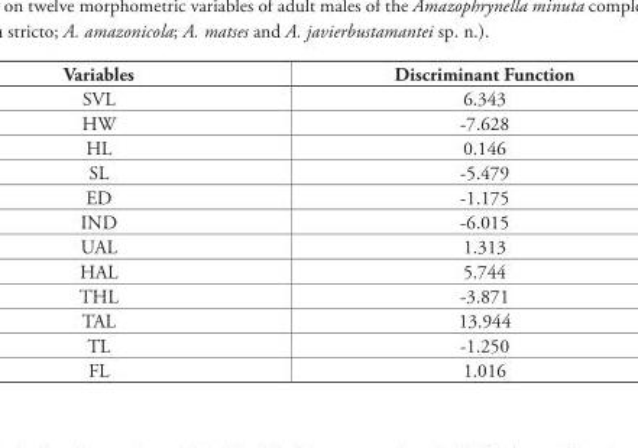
<table><thead><tr><td>Variables</td><td>Discriminant Function</td></tr></thead><tbody><tr><td>SVL</td><td>6.343</td></tr><tr><td>HW</td><td>-7.628</td></tr><tr><td>HL</td><td>0.146</td></tr><tr><td>SL</td><td>-5.479</td></tr><tr><td>ED</td><td>-1.175</td></tr><tr><td>IND</td><td>-6.015</td></tr><tr><td>UAL</td><td>1.313</td></tr><tr><td>HAL</td><td>5.744</td></tr><tr><td>THL</td><td>-3.871</td></tr><tr><td>TAL</td><td>13.944</td></tr><tr><td>TL</td><td>-1.250</td></tr><tr><td>FL</td><td>1.016</td></tr></tbody></table>